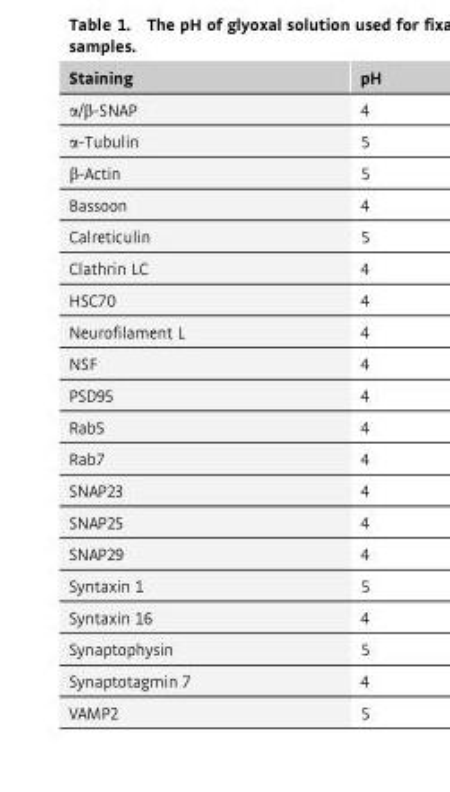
<table><thead><tr><td>Staining</td><td>pH</td></tr></thead><tbody><tr><td>α/β-SNAP</td><td>4</td></tr><tr><td>α-Tubulin</td><td>5</td></tr><tr><td>β-Actin</td><td>5</td></tr><tr><td>Bassoon</td><td>4</td></tr><tr><td>Calreticulin</td><td>5</td></tr><tr><td>Clathrin LC</td><td>4</td></tr><tr><td>HSC70</td><td>4</td></tr><tr><td>Neurofilament L</td><td>4</td></tr><tr><td>NSF</td><td>4</td></tr><tr><td>PSD95</td><td>4</td></tr><tr><td>Rab5</td><td>4</td></tr><tr><td>Rab7</td><td>4</td></tr><tr><td>SNAP23</td><td>4</td></tr><tr><td>SNAP25</td><td>4</td></tr><tr><td>SNAP29</td><td>4</td></tr><tr><td>Syntaxin 1</td><td>5</td></tr><tr><td>Syntaxin 16</td><td>4</td></tr><tr><td>Synaptophysin</td><td>5</td></tr><tr><td>Synaptotagmin 7</td><td>4</td></tr><tr><td>VAMP2</td><td>5</td></tr></tbody></table>